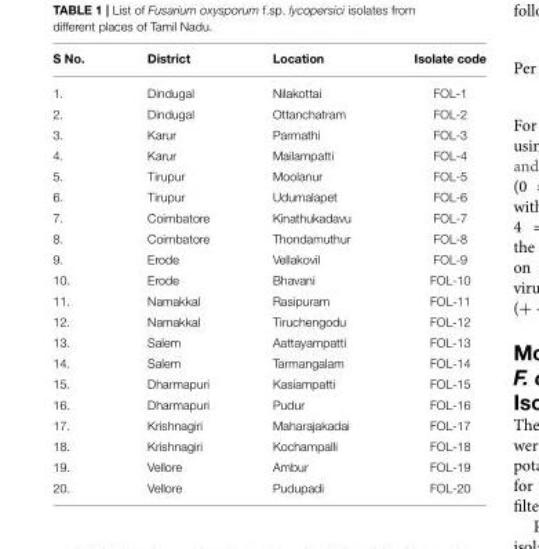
<table><thead><tr><td>S No.</td><td>District</td><td>Location</td><td>Isolate code</td></tr></thead><tbody><tr><td>1.</td><td>Dindugal</td><td>Nilakottai</td><td>FOL-1</td></tr><tr><td>2.</td><td>Dindugal</td><td>Ottanchatram</td><td>FOL-2</td></tr><tr><td>3.</td><td>Karur</td><td>Parmathi</td><td>FOL-3</td></tr><tr><td>4.</td><td>Karur</td><td>Mailampatti</td><td>FOL-4</td></tr><tr><td>5.</td><td>Tirupur</td><td>Moolanur</td><td>FOL-5</td></tr><tr><td>6.</td><td>Tirupur</td><td>Udumalapet</td><td>FOL-6</td></tr><tr><td>7.</td><td>Coimbatore</td><td>Kinathukadavu</td><td>FOL-7</td></tr><tr><td>8.</td><td>Coimbatore</td><td>Thondamuthur</td><td>FOL-8</td></tr><tr><td>9.</td><td>Erode</td><td>Vellakovil</td><td>FOL-9</td></tr><tr><td>10.</td><td>Erode</td><td>Bhavani</td><td>FOL-10</td></tr><tr><td>11.</td><td>Namakkal</td><td>Rasipuram</td><td>FOL-11</td></tr><tr><td>12.</td><td>Namakkal</td><td>Tiruchengodu</td><td>FOL-12</td></tr><tr><td>13.</td><td>Salem</td><td>Aattayampatti</td><td>FOL-13</td></tr><tr><td>14.</td><td>Salem</td><td>Tarmangalam</td><td>FOL-14</td></tr><tr><td>15.</td><td>Dharmapuri</td><td>Kasiampatti</td><td>FOL-15</td></tr><tr><td>16.</td><td>Dharmapuri</td><td>Pudur</td><td>FOL-16</td></tr><tr><td>17.</td><td>Krishnagiri</td><td>Maharajakadai</td><td>FOL-17</td></tr><tr><td>18.</td><td>Krishnagiri</td><td>Kochampalli</td><td>FOL-18</td></tr><tr><td>19.</td><td>Vellore</td><td>Ambur</td><td>FOL-19</td></tr><tr><td>20.</td><td>Vellore</td><td>Pudupadi</td><td>FOL-20</td></tr></tbody></table>